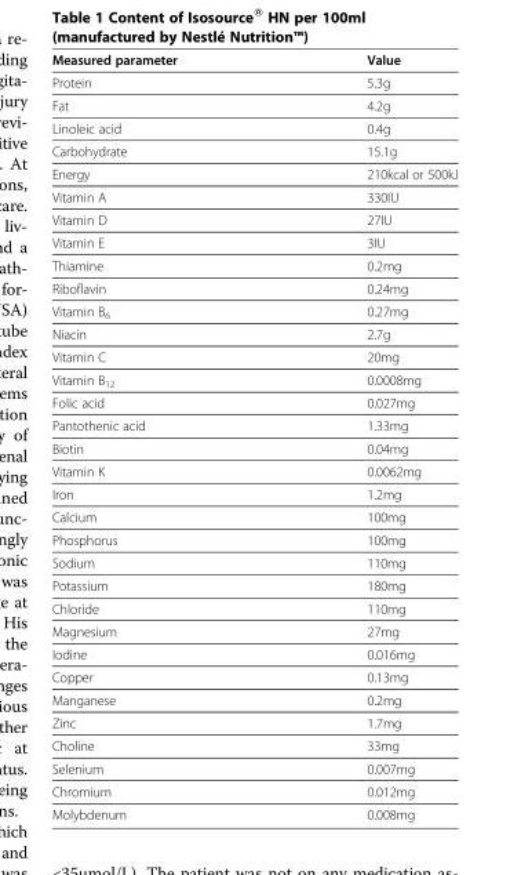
<table><thead><tr><td>Measured parameter</td><td>Value</td></tr></thead><tbody><tr><td>Protein</td><td>5.3g</td></tr><tr><td>Fat</td><td>4.2g</td></tr><tr><td>Linoleic acid</td><td>0.4g</td></tr><tr><td>Carbohydrate</td><td>15.1g</td></tr><tr><td>Energy</td><td>210kcal or 500kJ</td></tr><tr><td>Vitamin A</td><td>330IU</td></tr><tr><td>Vitamin D</td><td>27IU</td></tr><tr><td>Vitamin E</td><td>3IU</td></tr><tr><td>Thiamine</td><td>0.2mg</td></tr><tr><td>Riboflavin</td><td>0.24mg</td></tr><tr><td>Vitamin B<sub>6</sub></td><td>0.27mg</td></tr><tr><td>Niacin</td><td>2.7g</td></tr><tr><td>Vitamin C</td><td>20mg</td></tr><tr><td>Vitamin B<sub>12</sub></td><td>0.0008mg</td></tr><tr><td>Folic acid</td><td>0.027mg</td></tr><tr><td>Pantothenic acid</td><td>1.33mg</td></tr><tr><td>Biotin</td><td>0.04mg</td></tr><tr><td>Vitamin K</td><td>0.0062mg</td></tr><tr><td>Iron</td><td>1.2mg</td></tr><tr><td>Calcium</td><td>100mg</td></tr><tr><td>Phosphorus</td><td>100mg</td></tr><tr><td>Sodium</td><td>110mg</td></tr><tr><td>Potassium</td><td>180mg</td></tr><tr><td>Chloride</td><td>110mg</td></tr><tr><td>Magnesium</td><td>27mg</td></tr><tr><td>Iodine</td><td>0.016mg</td></tr><tr><td>Copper</td><td>0.13mg</td></tr><tr><td>Manganese</td><td>0.2mg</td></tr><tr><td>Zinc</td><td>1.7mg</td></tr><tr><td>Choline</td><td>33mg</td></tr><tr><td>Selenium</td><td>0.007mg</td></tr><tr><td>Chromium</td><td>0.012mg</td></tr><tr><td>Molybdenum</td><td>0.008mg</td></tr></tbody></table>